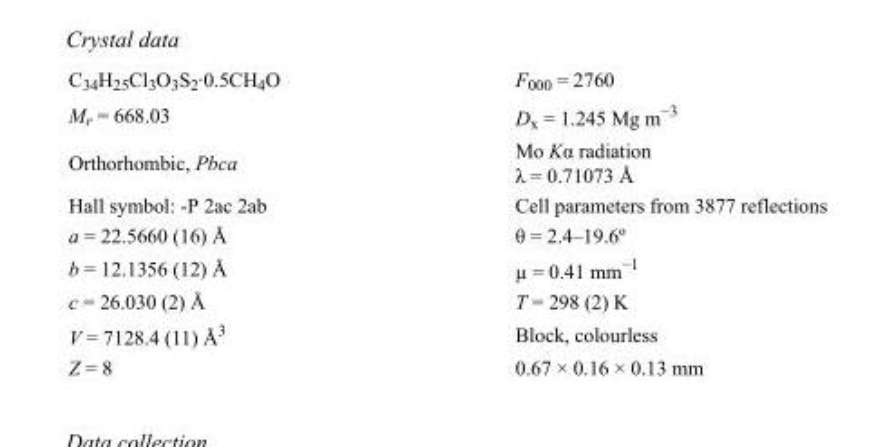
<table><tbody><tr><td>C<sub>34</sub>H<sub>25</sub>Cl<sub>3</sub>O<sub>3</sub>S<sub>2</sub>·0.5CH<sub>4</sub>O</td><td>F<sub>000</sub> = 2760</td></tr><tr><td>M<sub>r</sub> = 668.03</td><td>D<sub>x</sub> = 1.245 Mg m<sup>−3</sup></td></tr><tr><td>Orthorhombic, Pbca</td><td>Mo Kα radiation λ = 0.71073 Å</td></tr><tr><td>Hall symbol: -P 2ac 2ab</td><td>Cell parameters from 3877 reflections</td></tr><tr><td>a = 22.5660 (16) Å</td><td>θ = 2.4–19.6º</td></tr><tr><td>b = 12.1356 (12) Å</td><td>µ = 0.41 mm<sup>−1</sup></td></tr><tr><td>c = 26.030 (2) Å</td><td>T = 298 (2) K</td></tr><tr><td>V = 7128.4 (11) Å<sup>3</sup></td><td>Block, colourless</td></tr><tr><td>Z = 8</td><td>0.67 × 0.16 × 0.13 mm</td></tr></tbody></table>